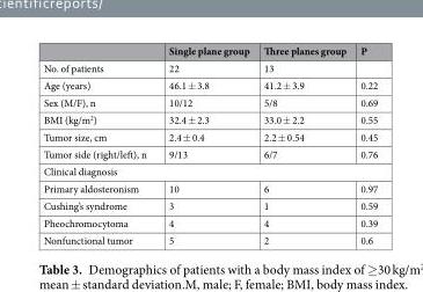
<table><thead><tr><td></td><td>Single plane group</td><td>Three planes group</td><td>P</td></tr></thead><tbody><tr><td>No. of patients</td><td>22</td><td>13</td><td></td></tr><tr><td>Age (years)</td><td>46.1 ± 3.8</td><td>41.2 ± 3.9</td><td>0.22</td></tr><tr><td>Sex (M/F), n</td><td>10/12</td><td>5/8</td><td>0.69</td></tr><tr><td>BMI (kg/m<sup>2</sup>)</td><td>32.4 ± 2.3</td><td>33.0 ± 2.2</td><td>0.55</td></tr><tr><td>Tumor size, cm</td><td>2.4 ± 0.4</td><td>2.2 ± 0.54</td><td>0.45</td></tr><tr><td>Tumor side (right/left), n</td><td>9/13</td><td>6/7</td><td>0.76</td></tr><tr><td colspan="4">Clinical diagnosis</td></tr><tr><td>Primary aldosteronism</td><td>10</td><td>6</td><td>0.97</td></tr><tr><td>Cushing’s syndrome</td><td>3</td><td>1</td><td>0.59</td></tr><tr><td>Pheochromocytoma</td><td>4</td><td>4</td><td>0.39</td></tr><tr><td>Nonfunctional tumor</td><td>5</td><td>2</td><td>0.6</td></tr></tbody></table>